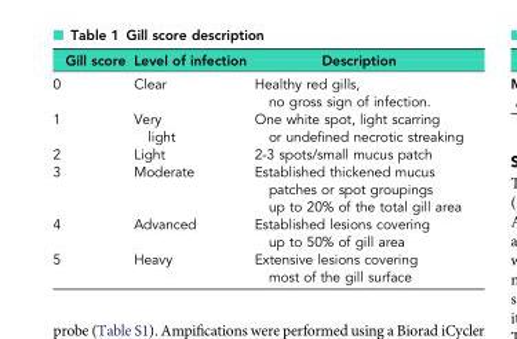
<table><thead><tr><td>Gill score</td><td>Level of infection</td><td>Description</td></tr></thead><tbody><tr><td>0</td><td>Clear</td><td>Healthy red gills, no gross sign of infection.</td></tr><tr><td>1</td><td>Very light</td><td>One white spot, light scarring or undefined necrotic streaking</td></tr><tr><td>2</td><td>Light</td><td>2-3 spots/small mucus patch</td></tr><tr><td>3</td><td>Moderate</td><td>Established thickened mucus patches or spot groupings up to 20% of the total gill area</td></tr><tr><td>4</td><td>Advanced</td><td>Established lesions covering up to 50% of gill area</td></tr><tr><td>5</td><td>Heavy</td><td>Extensive lesions covering most of the gill surface</td></tr></tbody></table>